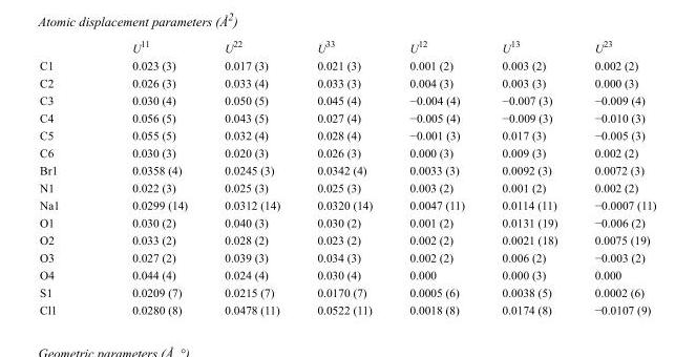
<table><thead><tr><td></td><td>U<sup>11</sup></td><td>U<sup>22</sup></td><td>U<sup>33</sup></td><td>U<sup>12</sup></td><td>U<sup>13</sup></td><td>U<sup>23</sup></td></tr></thead><tbody><tr><td>C1</td><td>0.023 (3)</td><td>0.017 (3)</td><td>0.021 (3)</td><td>0.001 (2)</td><td>0.003 (2)</td><td>0.002 (2)</td></tr><tr><td>C2</td><td>0.026 (3)</td><td>0.033 (4)</td><td>0.033 (3)</td><td>0.004 (3)</td><td>0.003 (3)</td><td>0.000 (3)</td></tr><tr><td>C3</td><td>0.030 (4)</td><td>0.050 (5)</td><td>0.045 (4)</td><td>−0.004 (4)</td><td>−0.007 (3)</td><td>−0.009 (4)</td></tr><tr><td>C4</td><td>0.056 (5)</td><td>0.043 (5)</td><td>0.027 (4)</td><td>−0.005 (4)</td><td>−0.009 (3)</td><td>−0.010 (3)</td></tr><tr><td>C5</td><td>0.055 (5)</td><td>0.032 (4)</td><td>0.028 (4)</td><td>−0.001 (3)</td><td>0.017 (3)</td><td>−0.005 (3)</td></tr><tr><td>C6</td><td>0.030 (3)</td><td>0.020 (3)</td><td>0.026 (3)</td><td>0.000 (3)</td><td>0.009 (3)</td><td>0.002 (2)</td></tr><tr><td>Br1</td><td>0.0358 (4)</td><td>0.0245 (3)</td><td>0.0342 (4)</td><td>0.0033 (3)</td><td>0.0092 (3)</td><td>0.0072 (3)</td></tr><tr><td>N1</td><td>0.022 (3)</td><td>0.025 (3)</td><td>0.025 (3)</td><td>0.003 (2)</td><td>0.001 (2)</td><td>0.002 (2)</td></tr><tr><td>Na1</td><td>0.0299 (14)</td><td>0.0312 (14)</td><td>0.0320 (14)</td><td>0.0047 (11)</td><td>0.0114 (11)</td><td>−0.0007 (11)</td></tr><tr><td>O1</td><td>0.030 (2)</td><td>0.040 (3)</td><td>0.030 (2)</td><td>0.001 (2)</td><td>0.0131 (19)</td><td>−0.006 (2)</td></tr><tr><td>O2</td><td>0.033 (2)</td><td>0.028 (2)</td><td>0.023 (2)</td><td>0.002 (2)</td><td>0.0021 (18)</td><td>0.0075 (19)</td></tr><tr><td>O3</td><td>0.027 (2)</td><td>0.039 (3)</td><td>0.034 (3)</td><td>0.002 (2)</td><td>0.006 (2)</td><td>−0.003 (2)</td></tr><tr><td>O4</td><td>0.044 (4)</td><td>0.024 (4)</td><td>0.030 (4)</td><td>0.000</td><td>0.000 (3)</td><td>0.000</td></tr><tr><td>S1</td><td>0.0209 (7)</td><td>0.0215 (7)</td><td>0.0170 (7)</td><td>0.0005 (6)</td><td>0.0038 (5)</td><td>0.0002 (6)</td></tr><tr><td>Cl1</td><td>0.0280 (8)</td><td>0.0478 (11)</td><td>0.0522 (11)</td><td>0.0018 (8)</td><td>0.0174 (8)</td><td>−0.0107 (9)</td></tr></tbody></table>